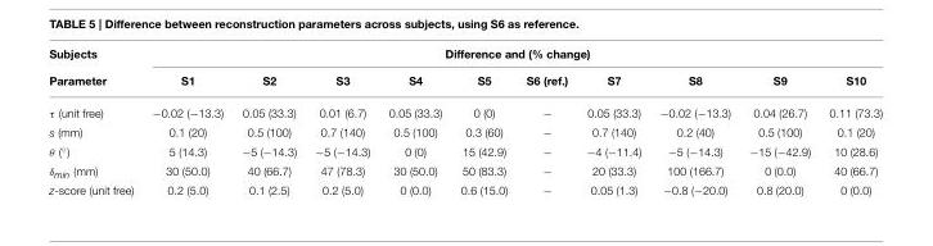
<table><thead><tr><td rowspan="2">Subjects Parameter</td><td colspan="10">Difference and (% change)</td></tr><tr><td>S1</td><td>S2</td><td>S3</td><td>S4</td><td>S5</td><td>S6 (ref.)</td><td>S7</td><td>S8</td><td>S9</td><td>S10</td></tr></thead><tbody><tr><td>τ (unit free)</td><td>−0.02 (−13.3)</td><td>0.05 (33.3)</td><td>0.01 (6.7)</td><td>0.05 (33.3)</td><td>0 (0)</td><td>−</td><td>0.05 (33.3)</td><td>−0.02 (−13.3)</td><td>0.04 (26.7)</td><td>0.11 (73.3)</td></tr><tr><td>s (mm)</td><td>0.1 (20)</td><td>0.5 (100)</td><td>0.7 (140)</td><td>0.5 (100)</td><td>0.3 (60)</td><td>−</td><td>0.7 (140)</td><td>0.2 (40)</td><td>0.5 (100)</td><td>0.1 (20)</td></tr><tr><td>θ (◦)</td><td>5 (14.3)</td><td>−5 (−14.3)</td><td>−5 (−14.3)</td><td>0 (0)</td><td>15 (42.9)</td><td>−</td><td>−4 (−11.4)</td><td>−5 (−14.3)</td><td>−15 (−42.9)</td><td>10 (28.6)</td></tr><tr><td>δ<sub>min</sub> (mm)</td><td>30 (50.0)</td><td>40 (66.7)</td><td>47 (78.3)</td><td>30 (50.0)</td><td>50 (83.3)</td><td>−</td><td>20 (33.3)</td><td>100 (166.7)</td><td>0 (0.0)</td><td>40 (66.7)</td></tr><tr><td>z-score (unit free)</td><td>0.2 (5.0)</td><td>0.1 (2.5)</td><td>0.2 (5.0)</td><td>0 (0.0)</td><td>0.6 (15.0)</td><td>−</td><td>0.05 (1.3)</td><td>−0.8 (−20.0)</td><td>0.8 (20.0)</td><td>0 (0.0)</td></tr></tbody></table>